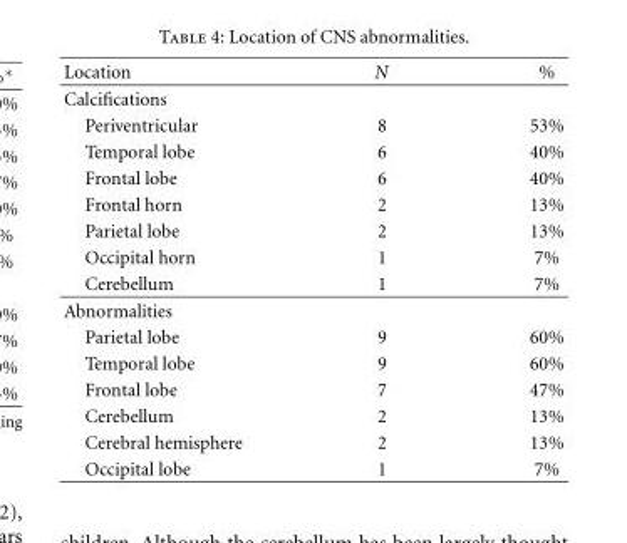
<table><thead><tr><td>Location</td><td>N</td><td>%</td></tr></thead><tbody><tr><td colspan="3">Calcifications</td></tr><tr><td>Periventricular</td><td>8</td><td>53%</td></tr><tr><td>Temporal lobe</td><td>6</td><td>40%</td></tr><tr><td>Frontal lobe</td><td>6</td><td>40%</td></tr><tr><td>Frontal horn</td><td>2</td><td>13%</td></tr><tr><td>Parietal lobe</td><td>2</td><td>13%</td></tr><tr><td>Occipital horn</td><td>1</td><td>7%</td></tr><tr><td>Cerebellum</td><td>1</td><td>7%</td></tr><tr><td colspan="3">Abnormalities</td></tr><tr><td>Parietal lobe</td><td>9</td><td>60%</td></tr><tr><td>Temporal lobe</td><td>9</td><td>60%</td></tr><tr><td>Frontal lobe</td><td>7</td><td>47%</td></tr><tr><td>Cerebellum</td><td>2</td><td>13%</td></tr><tr><td>Cerebral hemisphere</td><td>2</td><td>13%</td></tr><tr><td>Occipital lobe</td><td>1</td><td>7%</td></tr></tbody></table>